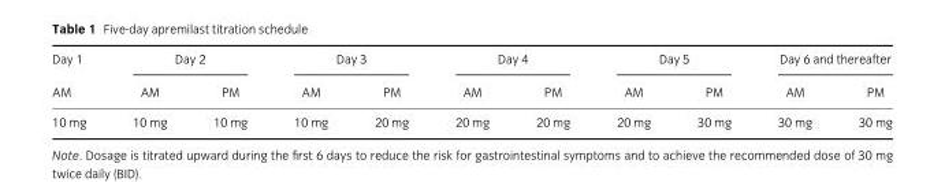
<table><thead><tr><td rowspan="2">Day 1 AM</td><td colspan="2">Day 2</td><td colspan="2">Day 3</td><td colspan="2">Day 4</td><td colspan="2">Day 5</td><td colspan="2">Day 6 and thereafter</td></tr><tr><td>AM</td><td>PM</td><td>AM</td><td>PM</td><td>AM</td><td>PM</td><td>AM</td><td>PM</td><td>AM</td><td>PM</td></tr></thead><tbody><tr><td>10 mg</td><td>10 mg</td><td>10 mg</td><td>10 mg</td><td>20 mg</td><td>20 mg</td><td>20 mg</td><td>20 mg</td><td>30 mg</td><td>30 mg</td><td>30 mg</td></tr></tbody></table>